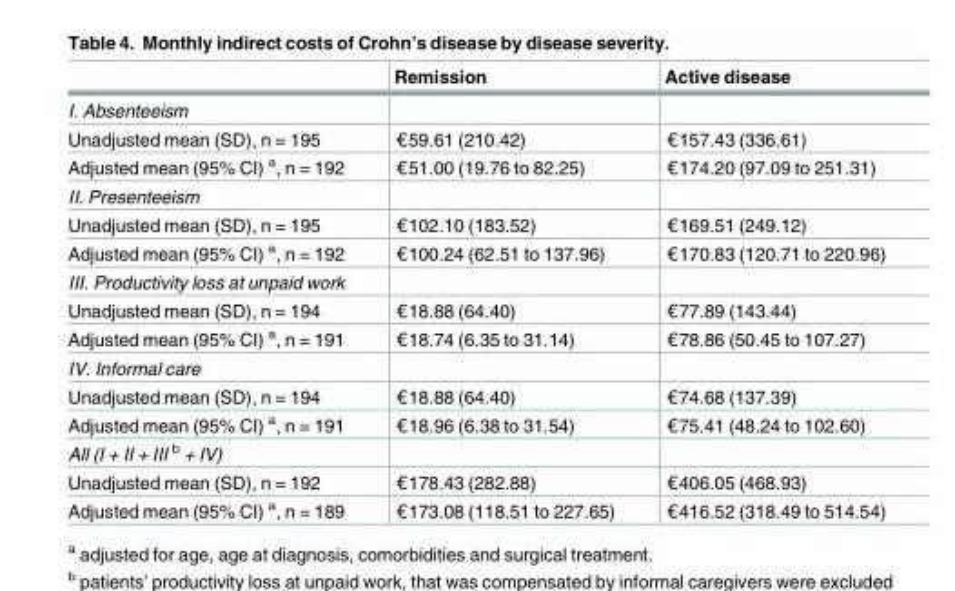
<table><thead><tr><td></td><td>Remission</td><td>Active disease</td></tr></thead><tbody><tr><td colspan="3">I. Absenteeism</td></tr><tr><td>Unadjusted mean (SD), n = 195</td><td>€59.61 (210.42)</td><td>€157.43 (336.61)</td></tr><tr><td>Adjusted mean (95% CI) <sup>a</sup>, n = 192</td><td>€51.00 (19.76 to 82.25)</td><td>€174.20 (97.09 to 251.31)</td></tr><tr><td colspan="3">II. Presenteeism</td></tr><tr><td>Unadjusted mean (SD), n = 195</td><td>€102.10 (183.52)</td><td>€169.51 (249.12)</td></tr><tr><td>Adjusted mean (95% CI) <sup>a</sup>, n = 192</td><td>€100.24 (62.51 to 137.96)</td><td>€170.83 (120.71 to 220.96)</td></tr><tr><td colspan="3">III. Productivity loss at unpaid work</td></tr><tr><td>Unadjusted mean (SD), n = 194</td><td>€18.88 (64.40)</td><td>€77.89 (143.44)</td></tr><tr><td>Adjusted mean (95% CI) <sup>a</sup>, n = 191</td><td>€18.74 (6.35 to 31.14)</td><td>€78.86 (50.45 to 107.27)</td></tr><tr><td colspan="3">IV. Informal care</td></tr><tr><td>Unadjusted mean (SD), n = 194</td><td>€18.88 (64.40)</td><td>€74.68 (137.39)</td></tr><tr><td>Adjusted mean (95% CI) <sup>a</sup>, n = 191</td><td>€18.96 (6.38 to 31.54)</td><td>€75.41 (48.24 to 102.60)</td></tr><tr><td colspan="3">All (I + II + III <sup>b</sup> + IV)</td></tr><tr><td>Unadjusted mean (SD), n = 192</td><td>€178.43 (282.88)</td><td>€406.05 (468.93)</td></tr><tr><td>Adjusted mean (95% CI) <sup>a</sup>, n = 189</td><td>€173.08 (118.51 to 227.65)</td><td>€416.52 (318.49 to 514.54)</td></tr></tbody></table>